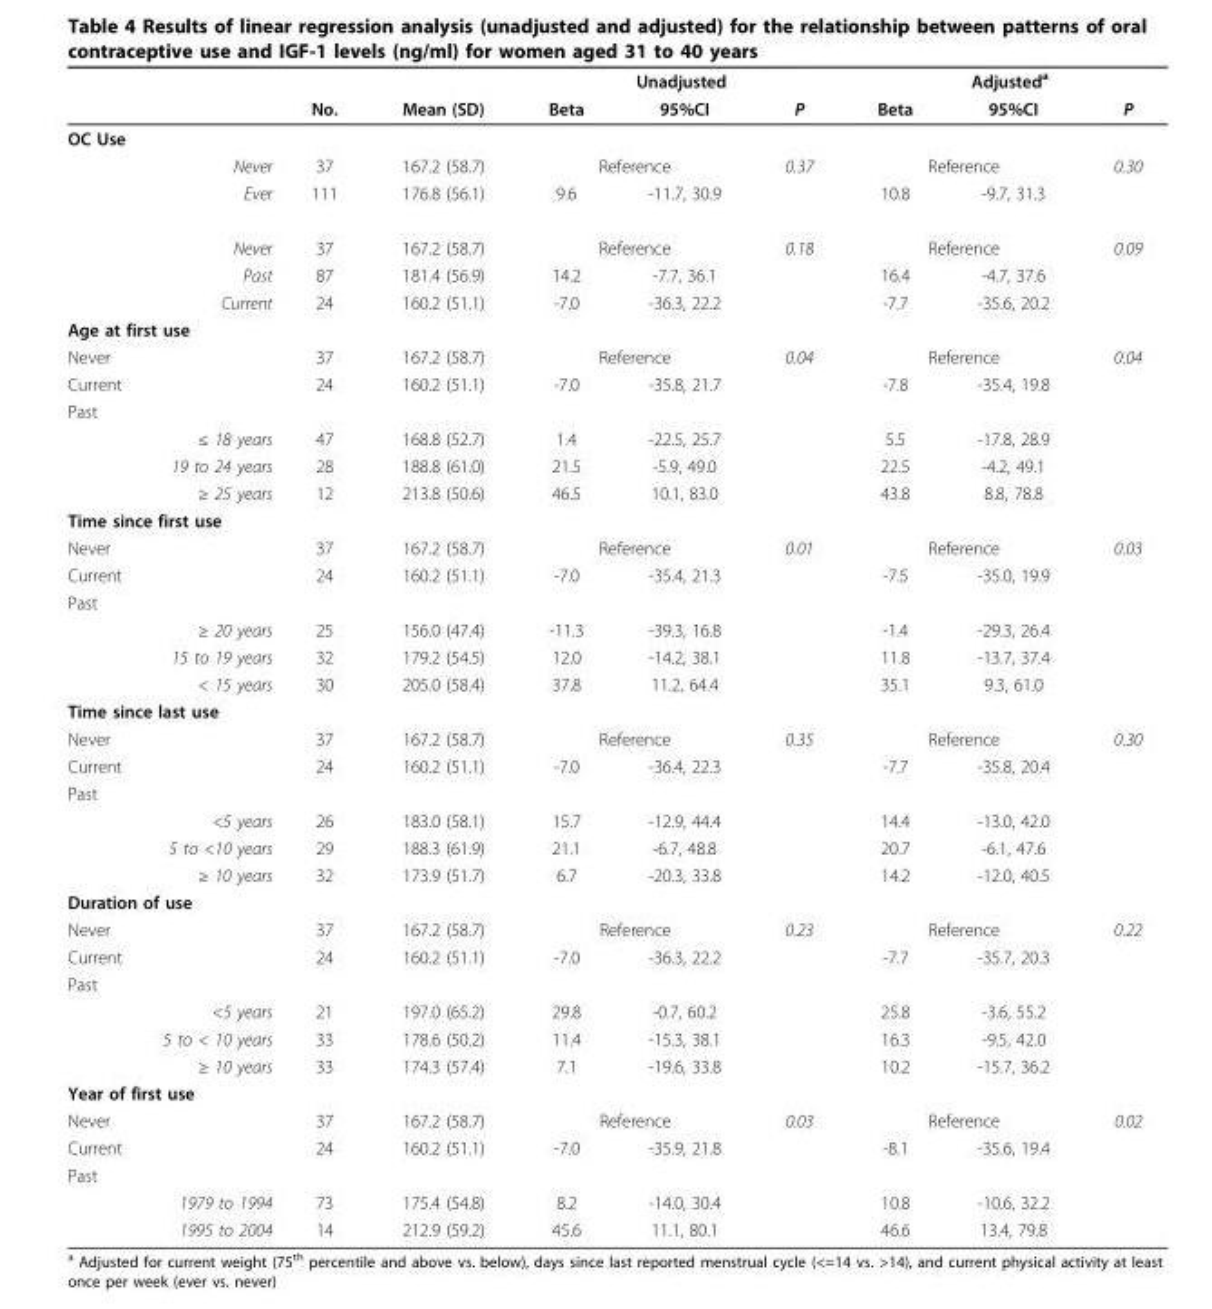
<table><thead><tr><td rowspan="2"></td><td rowspan="2">No.</td><td rowspan="2">Mean (SD)</td><td colspan="3">Unadjusted</td><td colspan="3">Adjusted<sup>a</sup></td></tr><tr><td>Beta</td><td>95%CI</td><td>P</td><td>Beta</td><td>95%CI</td><td>P</td></tr></thead><tbody><tr><td colspan="9">OC Use</td></tr><tr><td>Never</td><td>37</td><td>167.2 (58.7)</td><td colspan="2">Reference</td><td>0.37</td><td colspan="2">Reference</td><td>0.30</td></tr><tr><td>Ever</td><td>111</td><td>176.8 (56.1)</td><td>9.6</td><td>-11.7, 30.9</td><td></td><td>10.8</td><td>-9.7, 31.3</td><td></td></tr><tr><td>Never</td><td>37</td><td>167.2 (58.7)</td><td colspan="2">Reference</td><td>0.18</td><td colspan="2">Reference</td><td>0.09</td></tr><tr><td>Past</td><td>87</td><td>181.4 (56.9)</td><td>14.2</td><td>-7.7, 36.1</td><td></td><td>16.4</td><td>-4.7, 37.6</td><td></td></tr><tr><td>Current</td><td>24</td><td>160.2 (51.1)</td><td>-7.0</td><td>-36.3, 22.2</td><td></td><td>-7.7</td><td>-35.6, 20.2</td><td></td></tr><tr><td colspan="9">Age at first use</td></tr><tr><td>Never</td><td>37</td><td>167.2 (58.7)</td><td colspan="2">Reference</td><td>0.04</td><td colspan="2">Reference</td><td>0.04</td></tr><tr><td>Current</td><td>24</td><td>160.2 (51.1)</td><td>-7.0</td><td>-35.8, 21.7</td><td></td><td>-7.8</td><td>-35.4, 19.8</td><td></td></tr><tr><td colspan="9">Past</td></tr><tr><td>≤ 18 years</td><td>47</td><td>168.8 (52.7)</td><td>1.4</td><td>-22.5, 25.7</td><td></td><td>5.5</td><td>-17.8, 28.9</td><td></td></tr><tr><td>19 to 24 years</td><td>28</td><td>188.8 (61.0)</td><td>21.5</td><td>-5.9, 49.0</td><td></td><td>22.5</td><td>-4.2, 49.1</td><td></td></tr><tr><td>≥ 25 years</td><td>12</td><td>213.8 (50.6)</td><td>46.5</td><td>10.1, 83.0</td><td></td><td>43.8</td><td>8.8, 78.8</td><td></td></tr><tr><td colspan="9">Time since first use</td></tr><tr><td>Never</td><td>37</td><td>167.2 (58.7)</td><td colspan="2">Reference</td><td>0.01</td><td colspan="2">Reference</td><td>0.03</td></tr><tr><td>Current</td><td>24</td><td>160.2 (51.1)</td><td>-7.0</td><td>-35.4, 21.3</td><td></td><td>-7.5</td><td>-35.0, 19.9</td><td></td></tr><tr><td colspan="9">Past</td></tr><tr><td>≥ 20 years</td><td>25</td><td>156.0 (47.4)</td><td>-11.3</td><td>-39.3, 16.8</td><td></td><td>-1.4</td><td>-29.3, 26.4</td><td></td></tr><tr><td>15 to 19 years</td><td>32</td><td>179.2 (54.5)</td><td>12.0</td><td>-14.2, 38.1</td><td></td><td>11.8</td><td>-13.7, 37.4</td><td></td></tr><tr><td>&lt; 15 years</td><td>30</td><td>205.0 (58.4)</td><td>37.8</td><td>11.2, 64.4</td><td></td><td>35.1</td><td>9.3, 61.0</td><td></td></tr><tr><td colspan="9">Time since last use</td></tr><tr><td>Never</td><td>37</td><td>167.2 (58.7)</td><td colspan="2">Reference</td><td>0.35</td><td colspan="2">Reference</td><td>0.30</td></tr><tr><td>Current</td><td>24</td><td>160.2 (51.1)</td><td>-7.0</td><td>-36.4, 22.3</td><td></td><td>-7.7</td><td>-35.8, 20.4</td><td></td></tr><tr><td colspan="9">Past</td></tr><tr><td>&lt;5 years</td><td>26</td><td>183.0 (58.1)</td><td>15.7</td><td>-12.9, 44.4</td><td></td><td>14.4</td><td>-13.0, 42.0</td><td></td></tr><tr><td>5 to &lt;10 years</td><td>29</td><td>188.3 (61.9)</td><td>21.1</td><td>-6.7, 48.8</td><td></td><td>20.7</td><td>-6.1, 47.6</td><td></td></tr><tr><td>≥ 10 years</td><td>32</td><td>173.9 (51.7)</td><td>6.7</td><td>-20.3, 33.8</td><td></td><td>14.2</td><td>-12.0, 40.5</td><td></td></tr><tr><td colspan="9">Duration of use</td></tr><tr><td>Never</td><td>37</td><td>167.2 (58.7)</td><td colspan="2">Reference</td><td>0.23</td><td colspan="2">Reference</td><td>0.22</td></tr><tr><td>Current</td><td>24</td><td>160.2 (51.1)</td><td>-7.0</td><td>-36.3, 22.2</td><td></td><td>-7.7</td><td>-35.7, 20.3</td><td></td></tr><tr><td colspan="9">Past</td></tr><tr><td>&lt;5 years</td><td>21</td><td>197.0 (65.2)</td><td>29.8</td><td>-0.7, 60.2</td><td></td><td>25.8</td><td>-3.6, 55.2</td><td></td></tr><tr><td>5 to &lt; 10 years</td><td>33</td><td>178.6 (50.2)</td><td>11.4</td><td>-15.3, 38.1</td><td></td><td>16.3</td><td>-9.5, 42.0</td><td></td></tr><tr><td>≥ 10 years</td><td>33</td><td>174.3 (57.4)</td><td>7.1</td><td>-19.6, 33.8</td><td></td><td>10.2</td><td>-15.7, 36.2</td><td></td></tr><tr><td colspan="9">Year of first use</td></tr><tr><td>Never</td><td>37</td><td>167.2 (58.7)</td><td colspan="2">Reference</td><td>0.03</td><td colspan="2">Reference</td><td>0.02</td></tr><tr><td>Current</td><td>24</td><td>160.2 (51.1)</td><td>-7.0</td><td>-35.9, 21.8</td><td></td><td>-8.1</td><td>-35.6, 19.4</td><td></td></tr><tr><td colspan="9">Past</td></tr><tr><td>1979 to 1994</td><td>73</td><td>175.4 (54.8)</td><td>8.2</td><td>-14.0, 30.4</td><td></td><td>10.8</td><td>-10.6, 32.2</td><td></td></tr><tr><td>1995 to 2004</td><td>14</td><td>212.9 (59.2)</td><td>45.6</td><td>11.1, 80.1</td><td></td><td>46.6</td><td>13.4, 79.8</td><td></td></tr></tbody></table>